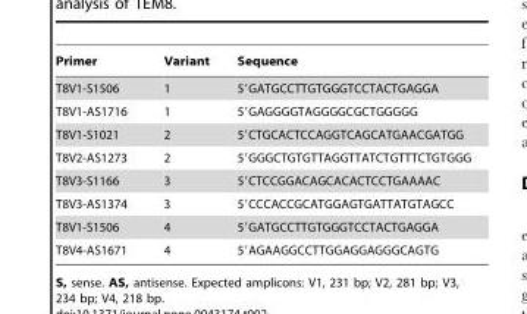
<table><thead><tr><td>Primer</td><td>Variant</td><td>Sequence</td></tr></thead><tbody><tr><td>T8V1-S1506</td><td>1</td><td>5′GATGCCTTGTGGGTCCTACTGAGGA</td></tr><tr><td>T8V1-AS1716</td><td>1</td><td>5′GAGGGGTAGGGGCGCTGGGGG</td></tr><tr><td>T8V1-S1021</td><td>2</td><td>5′CTGCACTCCAGGTCAGCATGAACGATGG</td></tr><tr><td>T8V2-AS1273</td><td>2</td><td>5′GGGCTGTGTTAGGTTATCTGTTTCTGTGGG</td></tr><tr><td>T8V3-S1166</td><td>3</td><td>5′CTCCGGACAGCACACTCCTGAAAAC</td></tr><tr><td>T8V3-AS1374</td><td>3</td><td>5′CCCACCGCATGGAGTGATTATGTAGCC</td></tr><tr><td>T8V1-S1506</td><td>4</td><td>5′GATGCCTTGTGGGTCCTACTGAGGA</td></tr><tr><td>T8V4-AS1671</td><td>4</td><td>5′AGAAGGCCTTGGAGGAGGGCAGTG</td></tr></tbody></table>